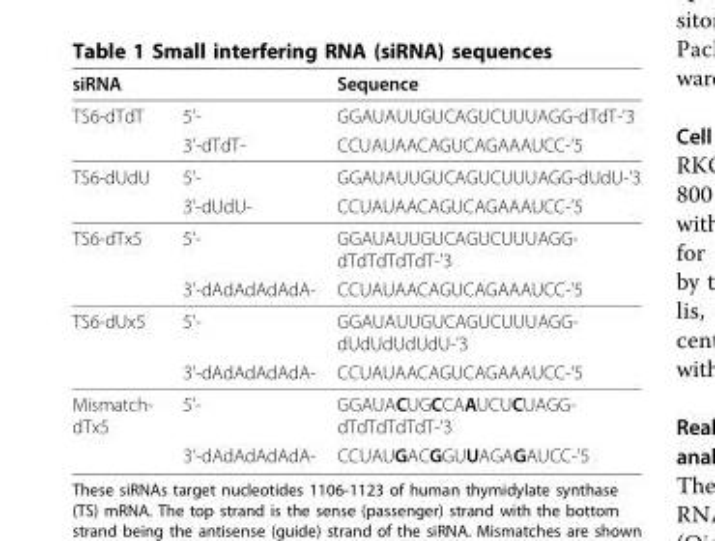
<table><thead><tr><td>siRNA</td><td></td><td>Sequence</td></tr></thead><tbody><tr><td rowspan="2">TS6-dTdT</td><td>5’-</td><td>GGAUAUUGUCAGUCUUUAGG-dTdT-’3</td></tr><tr><td>3’-dTdT-</td><td>CCUAUAACAGUCAGAAAUCC-’5</td></tr><tr><td rowspan="2">TS6-dUdU</td><td>5’-</td><td>GGAUAUUGUCAGUCUUUAGG-dUdU-’3</td></tr><tr><td>3’-dUdU-</td><td>CCUAUAACAGUCAGAAAUCC-’5</td></tr><tr><td rowspan="2">TS6-dTx5</td><td>5’-</td><td>GGAUAUUGUCAGUCUUUAGG- dTdTdTdTdT-’3</td></tr><tr><td>3’-dAdAdAdAdA-</td><td>CCUAUAACAGUCAGAAAUCC-’5</td></tr><tr><td rowspan="2">TS6-dUx5</td><td>5’-</td><td>GGAUAUUGUCAGUCUUUAGG- dUdUdUdUdU-’3</td></tr><tr><td>3’-dAdAdAdAdA-</td><td>CCUAUAACAGUCAGAAAUCC-’5</td></tr><tr><td rowspan="2">Mismatch- dTx5</td><td>5’-</td><td>GGAUACUGCCAAUCUCUAGG- dTdTdTdTdT-’3</td></tr><tr><td>3’-dAdAdAdAdA-</td><td>CCUAUGACGGUUAGAGAUCC-’5</td></tr></tbody></table>